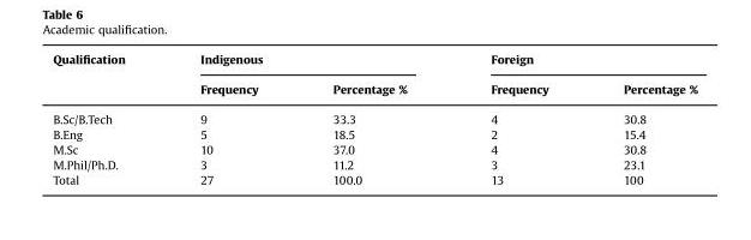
<table><thead><tr><td rowspan="2">Qualification</td><td colspan="2">Indigenous</td><td colspan="2">Foreign</td></tr><tr><td>Frequency</td><td>Percentage %</td><td>Frequency</td><td>Percentage %</td></tr></thead><tbody><tr><td>B.Sc/B.Tech</td><td>9</td><td>33.3</td><td>4</td><td>30.8</td></tr><tr><td>B.Eng</td><td>5</td><td>18.5</td><td>2</td><td>15.4</td></tr><tr><td>M.Sc</td><td>10</td><td>37.0</td><td>4</td><td>30.8</td></tr><tr><td>M.Phil/Ph.D.</td><td>3</td><td>11.2</td><td>3</td><td>23.1</td></tr><tr><td>Total</td><td>27</td><td>100.0</td><td>13</td><td>100</td></tr></tbody></table>